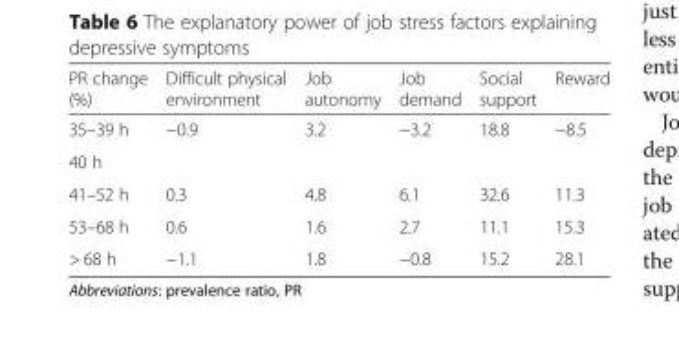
<table><thead><tr><td>PR change (%)</td><td>Difficult physical environment</td><td>Job autonomy</td><td>Job demand</td><td>Social support</td><td>Reward</td></tr></thead><tbody><tr><td>35–39 h</td><td>−0.9</td><td>3.2</td><td>−3.2</td><td>18.8</td><td>−8.5</td></tr><tr><td colspan="6">40 h</td></tr><tr><td>41–52 h</td><td>0.3</td><td>4.8</td><td>6.1</td><td>32.6</td><td>11.3</td></tr><tr><td>53–68 h</td><td>0.6</td><td>1.6</td><td>2.7</td><td>11.1</td><td>15.3</td></tr><tr><td>&gt; 68 h</td><td>−1.1</td><td>1.8</td><td>−0.8</td><td>15.2</td><td>28.1</td></tr></tbody></table>